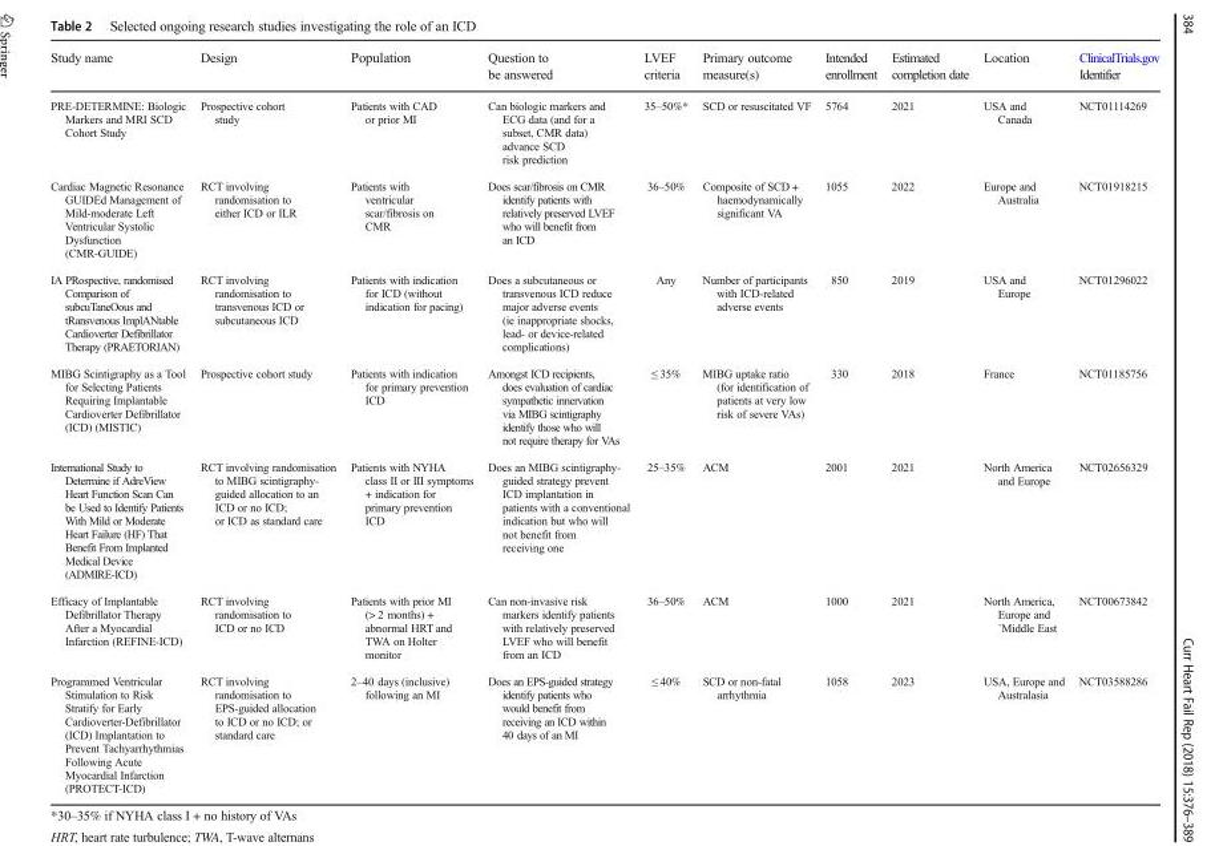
<table><thead><tr><td>Study name</td><td>Design</td><td>Population</td><td>Question to be answered</td><td>LVEF criteria</td><td>Primary outcome measure(s)</td><td>Intended enrollment</td><td>Estimated completion date</td><td>Location</td><td>ClinicalTrials.gov Identifier</td></tr></thead><tbody><tr><td>PRE-DETERMINE: Biologic Markers and MRI SCD Cohort Study</td><td>Prospective cohort study</td><td>Patients with CAD or prior MI</td><td>Can biologic markers and ECG data (and for a subset, CMR data) advance SCD risk prediction</td><td>35–50%*</td><td>SCD or resuscitated VF</td><td>5764</td><td>2021</td><td>USA and Canada</td><td>NCT01114269</td></tr><tr><td>Cardiac Magnetic Resonance GUIDEd Management of Mild-moderate Left Ventricular Systolic Dysfunction (CMR-GUIDE)</td><td>RCT involving randomisation to either ICD or ILR</td><td>Patients with ventricular scar/fibrosis on CMR</td><td>Does scar/fibrosis on CMR identify patients with relatively preserved LVEF who will benefit from an ICD</td><td>36–50%</td><td>Composite of SCD + haemodynamically significant VA</td><td>1055</td><td>2022</td><td>Europe and Australia</td><td>NCT01918215</td></tr><tr><td>IA PRospective, randomised Comparison of subcuTaneOous and tRansvenous ImplANtable Cardioverter Defibrillator Therapy (PRAETORIAN)</td><td>RCT involving randomisation to transvenous ICD or subcutaneous ICD</td><td>Patients with indication for ICD (without indication for pacing)</td><td>Does a subcutaneous or transvenous ICD reduce major adverse events (ie inappropriate shocks, lead- or device-related complications)</td><td>Any</td><td>Number of participants with ICD-related adverse events</td><td>850</td><td>2019</td><td>USA and Europe</td><td>NCT01296022</td></tr><tr><td>MIBG Scintigraphy as a Tool for Selecting Patients Requiring Implantable Cardioverter Defibrillator (ICD) (MISTIC)</td><td>Prospective cohort study</td><td>Patients with indication for primary prevention ICD</td><td>Amongst ICD recipients, does evaluation of cardiac sympathetic innervation via MIBG scintigraphy identify those who will not require therapy for VAs</td><td>≤ 35%</td><td>MIBG uptake ratio (for identification of patients at very low risk of severe VAs)</td><td>330</td><td>2018</td><td>France</td><td>NCT01185756</td></tr><tr><td>International Study to Determine if AdreView Heart Function Scan Can be Used to Identify Patients With Mild or Moderate Heart Failure (HF) That Benefit From Implanted Medical Device (ADMIRE-ICD)</td><td>RCT involving randomisation to MIBG scintigraphy- guided allocation to an ICD or no ICD; or ICD as standard care</td><td>Patients with NYHA class II or III symptoms + indication for primary prevention ICD</td><td>Does an MIBG scintigraphy- guided strategy prevent ICD implantation in patients with a conventional indication but who will not benefit from receiving one</td><td>25–35%</td><td>ACM</td><td>2001</td><td>2021</td><td>North America and Europe</td><td>NCT02656329</td></tr><tr><td>Efficacy of Implantable Defibrillator Therapy After a Myocardial Infarction (REFINE-ICD)</td><td>RCT involving randomisation to ICD or no ICD</td><td>Patients with prior MI (&gt; 2 months) + abnormal HRT and TWA on Holter monitor</td><td>Can non-invasive risk markers identify patients with relatively preserved LVEF who will benefit from an ICD</td><td>36–50%</td><td>ACM</td><td>1000</td><td>2021</td><td>North America, Europe and `Middle East</td><td>NCT00673842</td></tr><tr><td>Programmed Ventricular Stimulation to Risk Stratify for Early Cardioverter-Defibrillator (ICD) Implantation to Prevent Tachyarrhythmias Following Acute Myocardial Infarction (PROTECT-ICD)</td><td>RCT involving randomisation to EPS-guided allocation to ICD or no ICD; or standard care</td><td>2–40 days (inclusive) following an MI</td><td>Does an EPS-guided strategy identify patients who would benefit from receiving an ICD within 40 days of an MI</td><td>≤ 40%</td><td>SCD or non-fatal arrhythmia</td><td>1058</td><td>2023</td><td>USA, Europe and Australasia</td><td>NCT03588286</td></tr></tbody></table>